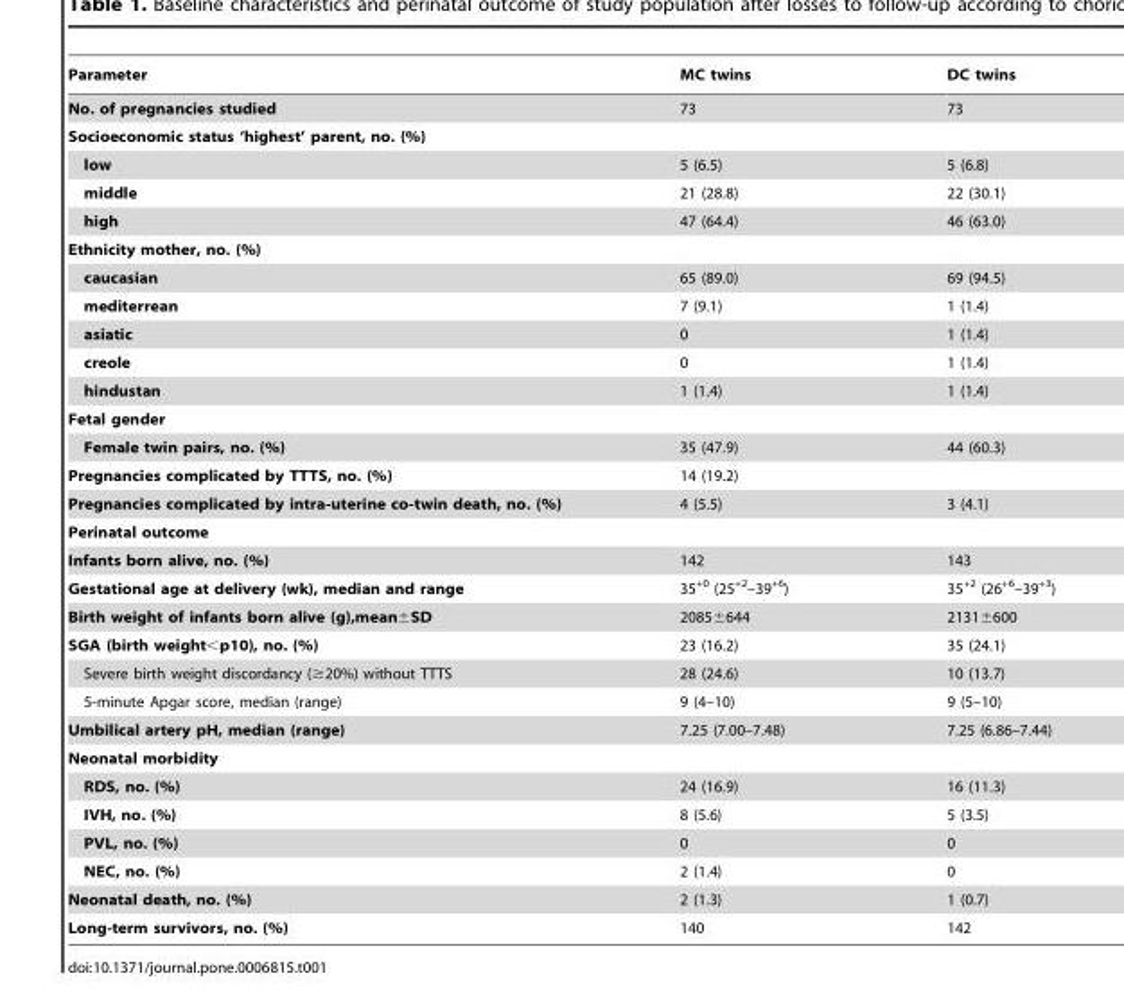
<table><thead><tr><td>Parameter</td><td>MC twins</td><td>DC twins</td></tr></thead><tbody><tr><td>No. of pregnancies studied</td><td>73</td><td>73</td></tr><tr><td colspan="3">Socioeconomic status ‘highest’ parent, no. (%)</td></tr><tr><td>low</td><td>5 (6.5)</td><td>5 (6.8)</td></tr><tr><td>middle</td><td>21 (28.8)</td><td>22 (30.1)</td></tr><tr><td>high</td><td>47 (64.4)</td><td>46 (63.0)</td></tr><tr><td colspan="3">Ethnicity mother, no. (%)</td></tr><tr><td>caucasian</td><td>65 (89.0)</td><td>69 (94.5)</td></tr><tr><td>mediterrean</td><td>7 (9.1)</td><td>1 (1.4)</td></tr><tr><td>asiatic</td><td>0</td><td>1 (1.4)</td></tr><tr><td>creole</td><td>0</td><td>1 (1.4)</td></tr><tr><td>hindustan</td><td>1 (1.4)</td><td>1 (1.4)</td></tr><tr><td colspan="3">Fetal gender</td></tr><tr><td>Female twin pairs, no. (%)</td><td>35 (47.9)</td><td>44 (60.3)</td></tr><tr><td>Pregnancies complicated by TTTS, no. (%)</td><td>14 (19.2)</td><td></td></tr><tr><td>Pregnancies complicated by intra-uterine co-twin death, no. (%)</td><td>4 (5.5)</td><td>3 (4.1)</td></tr><tr><td colspan="3">Perinatal outcome</td></tr><tr><td>Infants born alive, no. (%)</td><td>142</td><td>143</td></tr><tr><td>Gestational age at delivery (wk), median and range</td><td>35<sup>+0</sup> (25<sup>+2</sup>–39<sup>+6</sup>)</td><td>35<sup>+2</sup> (26<sup>+6</sup>–39<sup>+3</sup>)</td></tr><tr><td>Birth weight of infants born alive (g),mean±SD</td><td>2085±644</td><td>2131±600</td></tr><tr><td>SGA (birth weight&lt;p10), no. (%)</td><td>23 (16.2)</td><td>35 (24.1)</td></tr><tr><td>Severe birth weight discordancy (≥20%) without TTTS</td><td>28 (24.6)</td><td>10 (13.7)</td></tr><tr><td>5-minute Apgar score, median (range)</td><td>9 (4–10)</td><td>9 (5–10)</td></tr><tr><td>Umbilical artery pH, median (range)</td><td>7.25 (7.00–7.48)</td><td>7.25 (6.86–7.44)</td></tr><tr><td colspan="3">Neonatal morbidity</td></tr><tr><td>RDS, no. (%)</td><td>24 (16.9)</td><td>16 (11.3)</td></tr><tr><td>IVH, no. (%)</td><td>8 (5.6)</td><td>5 (3.5)</td></tr><tr><td>PVL, no. (%)</td><td>0</td><td>0</td></tr><tr><td>NEC, no. (%)</td><td>2 (1.4)</td><td>0</td></tr><tr><td>Neonatal death, no. (%)</td><td>2 (1.3)</td><td>1 (0.7)</td></tr><tr><td>Long-term survivors, no. (%)</td><td>140</td><td>142</td></tr></tbody></table>